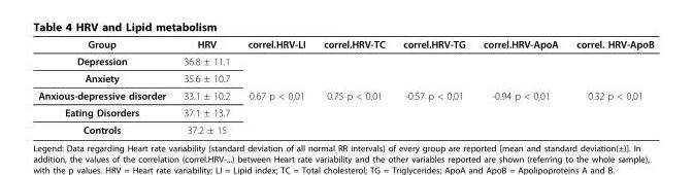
<table><thead><tr><td>Group</td><td>HRV</td><td>correl.HRV-LI</td><td>correl.HRV-TC</td><td>correl.HRV-TG</td><td>correl.HRV-ApoA</td><td>correl. HRV-ApoB</td></tr></thead><tbody><tr><td>Depression</td><td>36.8 ± 11.1</td><td></td><td></td><td></td><td></td><td></td></tr><tr><td>Anxiety</td><td>35.6 ± 10.7</td><td></td><td></td><td></td><td></td><td></td></tr><tr><td>Anxious-depressive disorder</td><td>33.1 ± 10.2</td><td>0.67 p &lt; 0,01</td><td>0.75 p &lt; 0,01</td><td>-0.57 p &lt; 0,01</td><td>-0.94 p &lt; 0,01</td><td>0.32 p &lt; 0,01</td></tr><tr><td>Eating Disorders</td><td>37.1 ± 13.7</td><td></td><td></td><td></td><td></td><td></td></tr><tr><td>Controls</td><td>37.2 ± 15</td><td></td><td></td><td></td><td></td><td></td></tr></tbody></table>